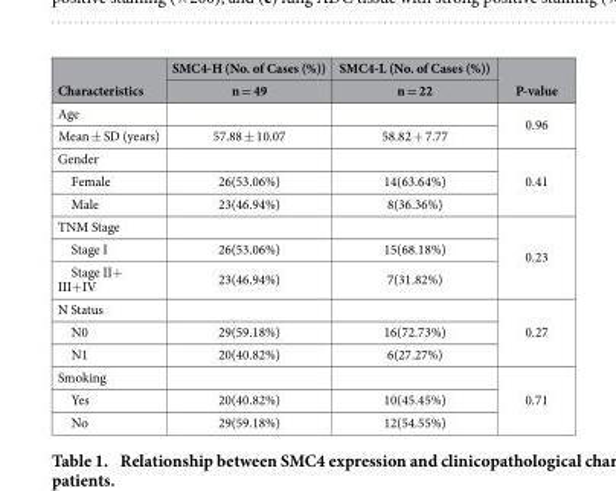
<table><thead><tr><td rowspan="2">Characteristics</td><td rowspan="2">SMC4-H (No. of Cases (%)) n = 49</td><td rowspan="2">SMC4-L (No. of Cases (%)) n = 22</td><td rowspan="2">P-value</td></tr><tr></tr></thead><tbody><tr><td colspan="3">Age</td><td rowspan="2">0.96</td></tr><tr><td>Mean ± SD (years)</td><td>57.88 ± 10.07</td><td>58.82 + 7.77</td></tr><tr><td colspan="3">Gender</td><td rowspan="3">0.41</td></tr><tr><td>Female</td><td>26(53.06%)</td><td>14(63.64%)</td></tr><tr><td>Male</td><td>23(46.94%)</td><td>8(36.36%)</td></tr><tr><td colspan="3">TNM Stage</td><td rowspan="3">0.23</td></tr><tr><td>Stage I</td><td>26(53.06%)</td><td>15(68.18%)</td></tr><tr><td>Stage II+ III+ IV</td><td>23(46.94%)</td><td>7(31.82%)</td></tr><tr><td colspan="3">N Status</td><td rowspan="3">0.27</td></tr><tr><td>N0</td><td>29(59.18%)</td><td>16(72.73%)</td></tr><tr><td>N1</td><td>20(40.82%)</td><td>6(27.27%)</td></tr><tr><td colspan="3">Smoking</td><td rowspan="3">0.71</td></tr><tr><td>Yes</td><td>20(40.82%)</td><td>10(45.45%)</td></tr><tr><td>No</td><td>29(59.18%)</td><td>12(54.55%)</td></tr></tbody></table>